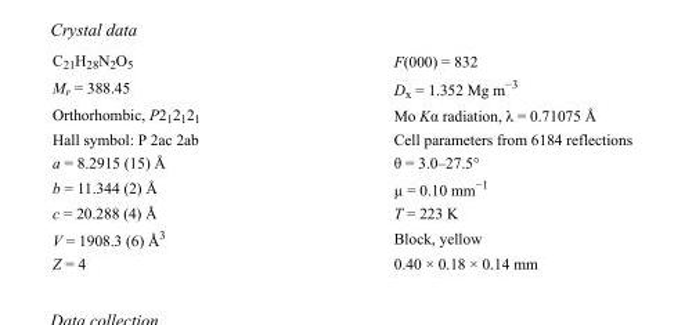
<table><tbody><tr><td>C<sub>21</sub>H<sub>28</sub>N<sub>2</sub>O<sub>5</sub></td><td>F(000) = 832</td></tr><tr><td>M<sub>r</sub> = 388.45</td><td>D<sub>x</sub> = 1.352 Mg m<sup>−3</sup></td></tr><tr><td>Orthorhombic, P2<sub>1</sub>2<sub>1</sub>2<sub>1</sub></td><td>Mo Kα radiation, λ = 0.71075 Å</td></tr><tr><td>Hall symbol: P 2ac 2ab</td><td>Cell parameters from 6184 reflections</td></tr><tr><td>a = 8.2915 (15) Å</td><td>θ = 3.0–27.5°</td></tr><tr><td>b = 11.344 (2) Å</td><td>µ = 0.10 mm<sup>−1</sup></td></tr><tr><td>c = 20.288 (4) Å</td><td>T = 223 K</td></tr><tr><td>V = 1908.3 (6) Å<sup>3</sup></td><td>Block, yellow</td></tr><tr><td>Z = 4</td><td>0.40 × 0.18 × 0.14 mm</td></tr></tbody></table>